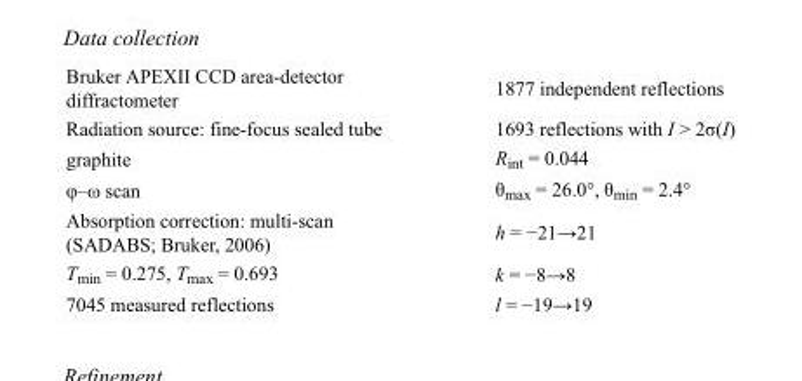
<table><tbody><tr><td>Bruker APEXII CCD area-detector diffractometer</td><td>1877 independent reflections</td></tr><tr><td>Radiation source: fine-focus sealed tube</td><td>1693 reflections with I &gt; 2σ(I)</td></tr><tr><td>graphite</td><td>R<sub>int</sub> = 0.044</td></tr><tr><td>φ–ω scan</td><td>θ<sub>max</sub> = 26.0°, θ<sub>min</sub> = 2.4°</td></tr><tr><td>Absorption correction: multi-scan (SADABS; Bruker, 2006)</td><td>h = −21→21</td></tr><tr><td>T<sub>min</sub> = 0.275, T<sub>max</sub> = 0.693</td><td>k = −8→8</td></tr><tr><td>7045 measured reflections</td><td>l = −19→19</td></tr></tbody></table>